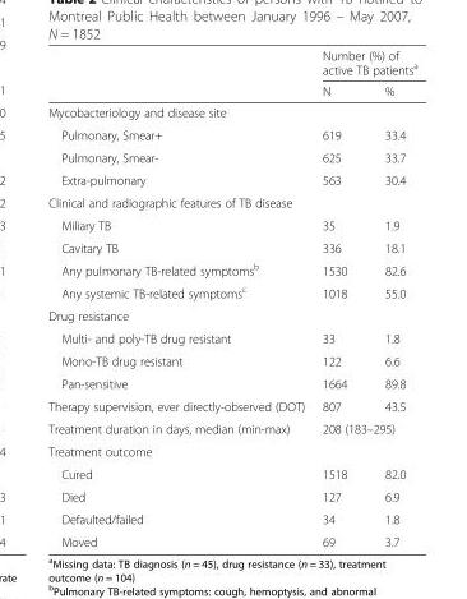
<table><thead><tr><td rowspan="2"></td><td colspan="2">Number (%) of active TB patients<sup>a</sup></td></tr><tr><td>N</td><td>%</td></tr></thead><tbody><tr><td colspan="3">Mycobacteriology and disease site</td></tr><tr><td>Pulmonary, Smear+</td><td>619</td><td>33.4</td></tr><tr><td>Pulmonary, Smear-</td><td>625</td><td>33.7</td></tr><tr><td>Extra-pulmonary</td><td>563</td><td>30.4</td></tr><tr><td colspan="3">Clinical and radiographic features of TB disease</td></tr><tr><td>Miliary TB</td><td>35</td><td>1.9</td></tr><tr><td>Cavitary TB</td><td>336</td><td>18.1</td></tr><tr><td>Any pulmonary TB-related symptoms<sup>b</sup></td><td>1530</td><td>82.6</td></tr><tr><td>Any systemic TB-related symptoms<sup>c</sup></td><td>1018</td><td>55.0</td></tr><tr><td colspan="3">Drug resistance</td></tr><tr><td>Multi- and poly-TB drug resistant</td><td>33</td><td>1.8</td></tr><tr><td>Mono-TB drug resistant</td><td>122</td><td>6.6</td></tr><tr><td>Pan-sensitive</td><td>1664</td><td>89.8</td></tr><tr><td>Therapy supervision, ever directly-observed (DOT)</td><td>807</td><td>43.5</td></tr><tr><td>Treatment duration in days, median (min-max)</td><td colspan="2">208 (183–295)</td></tr><tr><td colspan="3">Treatment outcome</td></tr><tr><td>Cured</td><td>1518</td><td>82.0</td></tr><tr><td>Died</td><td>127</td><td>6.9</td></tr><tr><td>Defaulted/failed</td><td>34</td><td>1.8</td></tr><tr><td>Moved</td><td>69</td><td>3.7</td></tr></tbody></table>